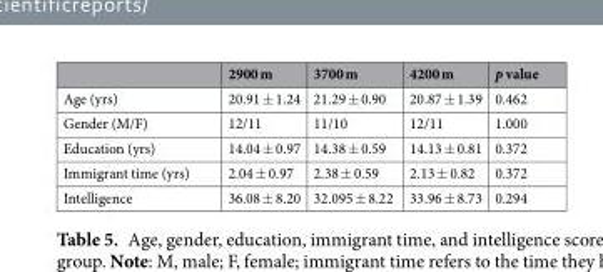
<table><thead><tr><td></td><td>2900 m</td><td>3700 m</td><td>4200 m</td><td>p value</td></tr></thead><tbody><tr><td>Age (yrs)</td><td>20.91 ± 1.24</td><td>21.29 ± 0.90</td><td>20.87 ± 1.39</td><td>0.462</td></tr><tr><td>Gender (M/F)</td><td>12/11</td><td>11/10</td><td>12/11</td><td>1.000</td></tr><tr><td>Education (yrs)</td><td>14.04 ± 0.97</td><td>14.38 ± 0.59</td><td>14.13 ± 0.81</td><td>0.372</td></tr><tr><td>Immigrant time (yrs)</td><td>2.04 ± 0.97</td><td>2.38 ± 0.59</td><td>2.13 ± 0.82</td><td>0.372</td></tr><tr><td>Intelligence</td><td>36.08 ± 8.20</td><td>32.095 ± 8.22</td><td>33.96 ± 8.73</td><td>0.294</td></tr></tbody></table>